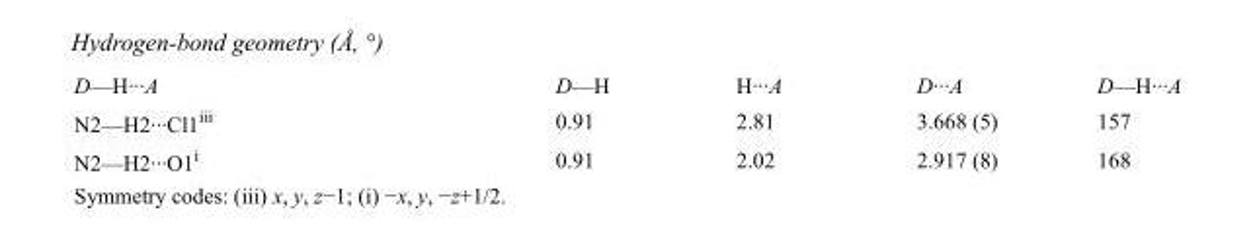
<table><tbody><tr><td>D—H···A</td><td>D—H</td><td>H···A</td><td>D···A</td><td>D—H···A</td></tr><tr><td>N2—H2···Cl1<sup>iii</sup></td><td>0.91</td><td>2.81</td><td>3.668 (5)</td><td>157</td></tr><tr><td>N2—H2···O1<sup>i</sup></td><td>0.91</td><td>2.02</td><td>2.917 (8)</td><td>168</td></tr></tbody></table>